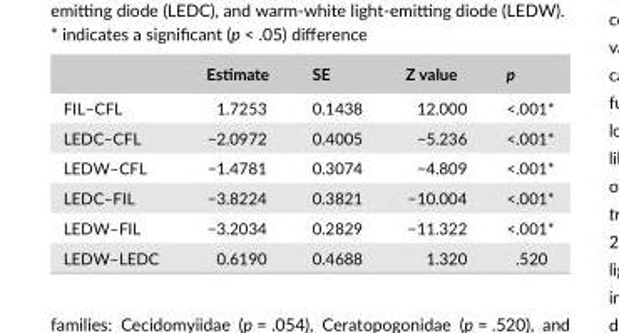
<table><thead><tr><td></td><td>Estimate</td><td>SE</td><td>Z value</td><td>p</td></tr></thead><tbody><tr><td>FIL–CFL</td><td>1.7253</td><td>0.1438</td><td>12.000</td><td>&lt;.001*</td></tr><tr><td>LEDC–CFL</td><td>−2.0972</td><td>0.4005</td><td>−5.236</td><td>&lt;.001*</td></tr><tr><td>LEDW–CFL</td><td>−1.4781</td><td>0.3074</td><td>−4.809</td><td>&lt;.001*</td></tr><tr><td>LEDC–FIL</td><td>−3.8224</td><td>0.3821</td><td>−10.004</td><td>&lt;.001*</td></tr><tr><td>LEDW–FIL</td><td>−3.2034</td><td>0.2829</td><td>−11.322</td><td>&lt;.001*</td></tr><tr><td>LEDW–LEDC</td><td>0.6190</td><td>0.4688</td><td>1.320</td><td>.520</td></tr></tbody></table>